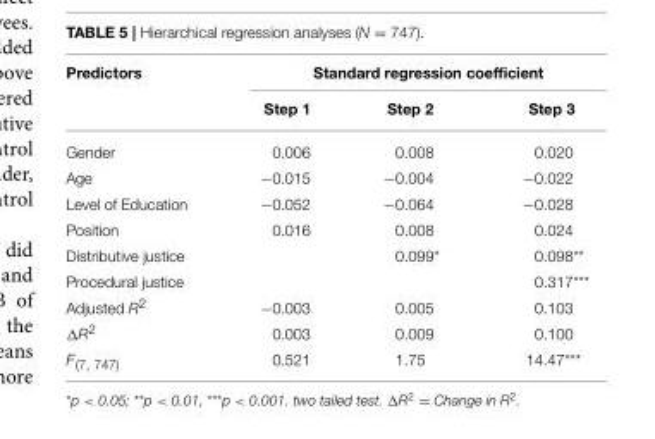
<table><thead><tr><td rowspan="2">Predictors</td><td colspan="3">Standard regression coefficient</td></tr><tr><td>Step 1</td><td>Step 2</td><td>Step 3</td></tr></thead><tbody><tr><td>Gender</td><td>0.006</td><td>0.008</td><td>0.020</td></tr><tr><td>Age</td><td>−0.015</td><td>−0.004</td><td>−0.022</td></tr><tr><td>Level of Education</td><td>−0.052</td><td>−0.064</td><td>−0.028</td></tr><tr><td>Position</td><td>0.016</td><td>0.008</td><td>0.024</td></tr><tr><td>Distributive justice</td><td></td><td>0.099*</td><td>0.098**</td></tr><tr><td>Procedural justice</td><td></td><td></td><td>0.317***</td></tr><tr><td>Adjusted R<sup>2</sup></td><td>−0.003</td><td>0.005</td><td>0.103</td></tr><tr><td>ΔR<sup>2</sup></td><td>0.003</td><td>0.009</td><td>0.100</td></tr><tr><td>F<sub>(7, 747)</sub></td><td>0.521</td><td>1.75</td><td>14.47***</td></tr></tbody></table>